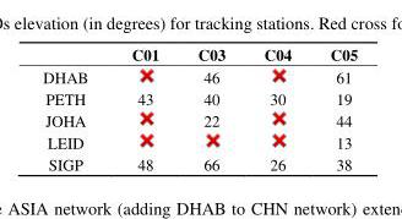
<table><thead><tr><td></td><td>C01</td><td>C03</td><td>C04</td><td>C05</td></tr></thead><tbody><tr><td>DHAB</td><td></td><td>46</td><td></td><td>61</td></tr><tr><td>PETH</td><td>43</td><td>40</td><td>30</td><td>19</td></tr><tr><td>JOHA</td><td></td><td>22</td><td></td><td>44</td></tr><tr><td>LEID</td><td></td><td></td><td></td><td>13</td></tr><tr><td>SIGP</td><td>48</td><td>66</td><td>26</td><td>38</td></tr></tbody></table>